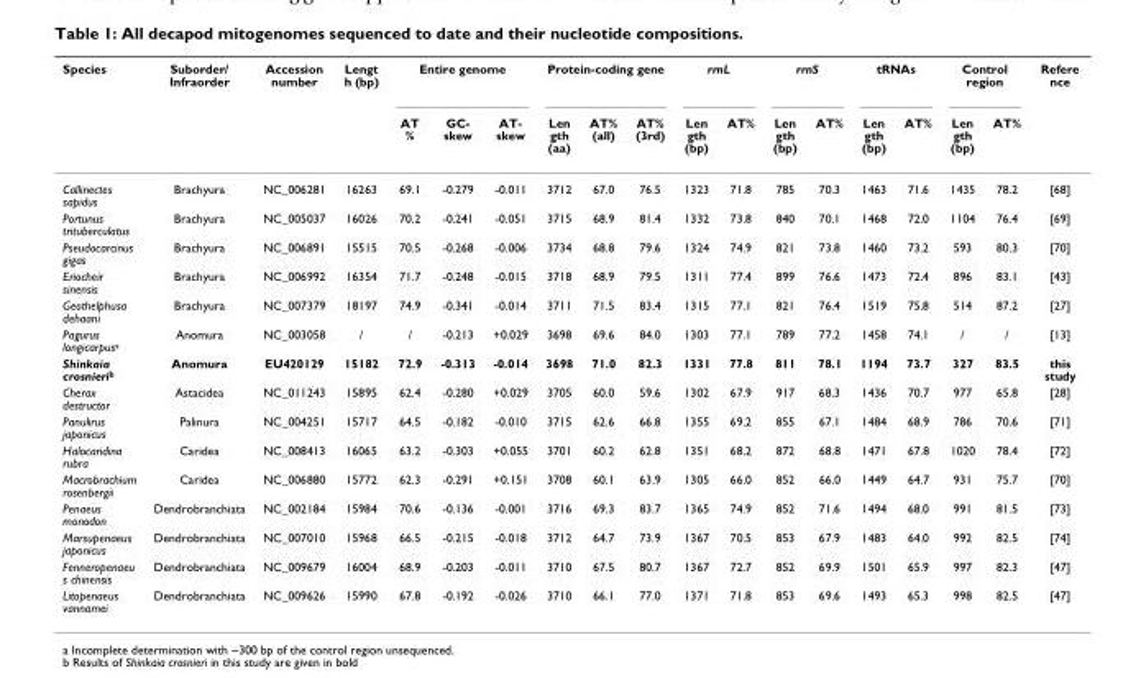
<table><thead><tr><td rowspan="2">Species</td><td rowspan="2">Suborder/ Infraorder</td><td rowspan="2">Accession number</td><td rowspan="2">Lengt h (bp)</td><td colspan="3">Entire genome</td><td colspan="3">Protein-coding gene</td><td colspan="2">rrnL</td><td colspan="2">rrnS</td><td colspan="2">tRNAs</td><td colspan="2">Control region</td><td rowspan="2">Refere nce</td></tr><tr><td>AT %</td><td>GC- skew</td><td>AT- skew</td><td>Len gth (aa)</td><td>AT% (all)</td><td>AT% (3rd)</td><td>Len gth (bp)</td><td>AT%</td><td>Len gth (bp)</td><td>AT%</td><td>Len gth (bp)</td><td>AT%</td><td>Len gth (bp)</td><td>AT%</td></tr></thead><tbody><tr><td>Callinectes sapidus</td><td>Brachyura</td><td>NC_006281</td><td>16263</td><td>69.1</td><td>-0.279</td><td>-0.011</td><td>3712</td><td>67.0</td><td>76.5</td><td>1323</td><td>71.8</td><td>785</td><td>70.3</td><td>1463</td><td>71.6</td><td>1435</td><td>78.2</td><td>[68]</td></tr><tr><td>Portunus trituberculatus</td><td>Brachyura</td><td>NC_005037</td><td>16026</td><td>70.2</td><td>-0.241</td><td>-0.051</td><td>3715</td><td>68.9</td><td>81.4</td><td>1332</td><td>73.8</td><td>840</td><td>70.1</td><td>1468</td><td>72.0</td><td>1104</td><td>76.4</td><td>[69]</td></tr><tr><td>Pseudocarcinus gigas</td><td>Brachyura</td><td>NC_006891</td><td>15515</td><td>70.5</td><td>-0.268</td><td>-0.006</td><td>3734</td><td>68.8</td><td>79.6</td><td>1324</td><td>74.9</td><td>821</td><td>73.8</td><td>1460</td><td>73.2</td><td>593</td><td>80.3</td><td>[70]</td></tr><tr><td>Eriocheir sinensis</td><td>Brachyura</td><td>NC_006992</td><td>16354</td><td>71.7</td><td>-0.248</td><td>-0.015</td><td>3718</td><td>68.9</td><td>79.5</td><td>1311</td><td>77.4</td><td>899</td><td>76.6</td><td>1473</td><td>72.4</td><td>896</td><td>83.1</td><td>[43]</td></tr><tr><td>Geothelphusa dehaani</td><td>Brachyura</td><td>NC_007379</td><td>18197</td><td>74.9</td><td>-0.341</td><td>-0.014</td><td>3711</td><td>71.5</td><td>83.4</td><td>1315</td><td>77.1</td><td>821</td><td>76.4</td><td>1519</td><td>75.8</td><td>514</td><td>87.2</td><td>[27]</td></tr><tr><td>Pagurus longicarpus<sup>a</sup></td><td>Anomura</td><td>NC_003058</td><td>/</td><td>/</td><td>-0.213</td><td>+0.029</td><td>3698</td><td>69.6</td><td>84.0</td><td>1303</td><td>77.1</td><td>789</td><td>77.2</td><td>1458</td><td>74.1</td><td>/</td><td>/</td><td>[13]</td></tr><tr><td>Shinkaia crosnieri<sup>b</sup></td><td>Anomura</td><td>EU420129</td><td>15182</td><td>72.9</td><td>-0.313</td><td>-0.014</td><td>3698</td><td>71.0</td><td>82.3</td><td>1331</td><td>77.8</td><td>811</td><td>78.1</td><td>1194</td><td>73.7</td><td>327</td><td>83.5</td><td>this study</td></tr><tr><td>Cherax destructor</td><td>Astacidea</td><td>NC_011243</td><td>15895</td><td>62.4</td><td>-0.280</td><td>+0.029</td><td>3705</td><td>60.0</td><td>59.6</td><td>1302</td><td>67.9</td><td>917</td><td>68.3</td><td>1436</td><td>70.7</td><td>977</td><td>65.8</td><td>[28]</td></tr><tr><td>Panulirus japonicus</td><td>Palinura</td><td>NC_004251</td><td>15717</td><td>64.5</td><td>-0.182</td><td>-0.010</td><td>3715</td><td>62.6</td><td>66.8</td><td>1355</td><td>69.2</td><td>855</td><td>67.1</td><td>1484</td><td>68.9</td><td>786</td><td>70.6</td><td>[71]</td></tr><tr><td>Halocaridina rubra</td><td>Caridea</td><td>NC_008413</td><td>16065</td><td>63.2</td><td>-0.303</td><td>+0.055</td><td>3701</td><td>60.2</td><td>62.8</td><td>1351</td><td>68.2</td><td>872</td><td>68.8</td><td>1471</td><td>67.8</td><td>1020</td><td>78.4</td><td>[72]</td></tr><tr><td>Macrobrachium rosenbergii</td><td>Caridea</td><td>NC_006880</td><td>15772</td><td>62.3</td><td>-0.291</td><td>+0.151</td><td>3708</td><td>60.1</td><td>63.9</td><td>1305</td><td>66.0</td><td>852</td><td>66.0</td><td>1449</td><td>64.7</td><td>931</td><td>75.7</td><td>[70]</td></tr><tr><td>Penaeus monodon</td><td>Dendrobranchiata</td><td>NC_002184</td><td>15984</td><td>70.6</td><td>-0.136</td><td>-0.001</td><td>3716</td><td>69.3</td><td>83.7</td><td>1365</td><td>74.9</td><td>852</td><td>71.6</td><td>1494</td><td>68.0</td><td>991</td><td>81.5</td><td>[73]</td></tr><tr><td>Marsupenaeus japonicus</td><td>Dendrobranchiata</td><td>NC_007010</td><td>15968</td><td>66.5</td><td>-0.215</td><td>-0.018</td><td>3712</td><td>64.7</td><td>73.9</td><td>1367</td><td>70.5</td><td>853</td><td>67.9</td><td>1483</td><td>64.0</td><td>992</td><td>82.5</td><td>[74]</td></tr><tr><td>Fenneropenaeu s chinensis</td><td>Dendrobranchiata</td><td>NC_009679</td><td>16004</td><td>68.9</td><td>-0.203</td><td>-0.011</td><td>3710</td><td>67.5</td><td>80.7</td><td>1367</td><td>72.7</td><td>852</td><td>69.9</td><td>1501</td><td>65.9</td><td>997</td><td>82.3</td><td>[47]</td></tr><tr><td>Litopenaeus vannamei</td><td>Dendrobranchiata</td><td>NC_009626</td><td>15990</td><td>67.8</td><td>-0.192</td><td>-0.026</td><td>3710</td><td>66.1</td><td>77.0</td><td>1371</td><td>71.8</td><td>853</td><td>69.6</td><td>1493</td><td>65.3</td><td>998</td><td>82.5</td><td>[47]</td></tr></tbody></table>